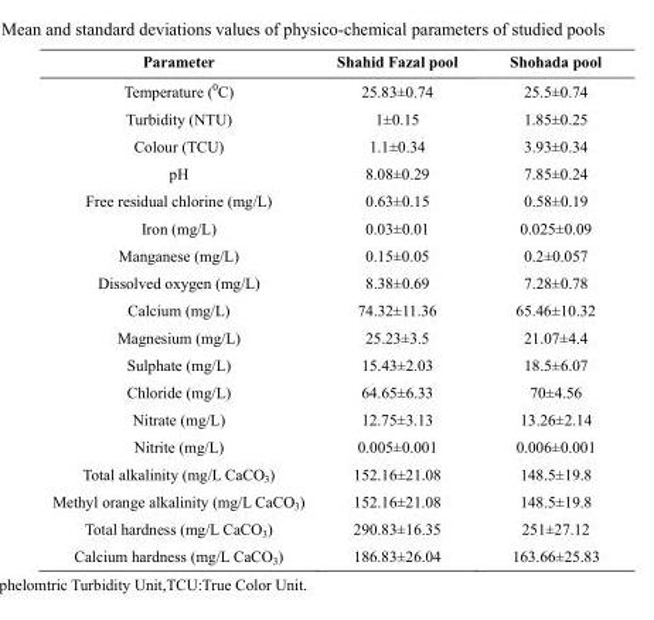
<table><thead><tr><td>Parameter</td><td>Shahid Fazal pool</td><td>Shohada pool</td></tr></thead><tbody><tr><td>Temperature (<sup>0</sup>C)</td><td>25.83±0.74</td><td>25.5±0.74</td></tr><tr><td>Turbidity (NTU)</td><td>1±0.15</td><td>1.85±0.25</td></tr><tr><td>Colour (TCU)</td><td>1.1±0.34</td><td>3.93±0.34</td></tr><tr><td>pH</td><td>8.08±0.29</td><td>7.85±0.24</td></tr><tr><td>Free residual chlorine (mg/L)</td><td>0.63±0.15</td><td>0.58±0.19</td></tr><tr><td>Iron (mg/L)</td><td>0.03±0.01</td><td>0.025±0.09</td></tr><tr><td>Manganese (mg/L)</td><td>0.15±0.05</td><td>0.2±0.057</td></tr><tr><td>Dissolved oxygen (mg/L)</td><td>8.38±0.69</td><td>7.28±0.78</td></tr><tr><td>Calcium (mg/L)</td><td>74.32±11.36</td><td>65.46±10.32</td></tr><tr><td>Magnesium (mg/L)</td><td>25.23±3.5</td><td>21.07±4.4</td></tr><tr><td>Sulphate (mg/L)</td><td>15.43±2.03</td><td>18.5±6.07</td></tr><tr><td>Chloride (mg/L)</td><td>64.65±6.33</td><td>70±4.56</td></tr><tr><td>Nitrate (mg/L)</td><td>12.75±3.13</td><td>13.26±2.14</td></tr><tr><td>Nitrite (mg/L)</td><td>0.005±0.001</td><td>0.006±0.001</td></tr><tr><td>Total alkalinity (mg/L CaCO<sub>3</sub>)</td><td>152.16±21.08</td><td>148.5±19.8</td></tr><tr><td>Methyl orange alkalinity (mg/L CaCO<sub>3</sub>)</td><td>152.16±21.08</td><td>148.5±19.8</td></tr><tr><td>Total hardness (mg/L CaCO<sub>3</sub>)</td><td>290.83±16.35</td><td>251±27.12</td></tr><tr><td>Calcium hardness (mg/L CaCO<sub>3</sub>)</td><td>186.83±26.04</td><td>163.66±25.83</td></tr></tbody></table>